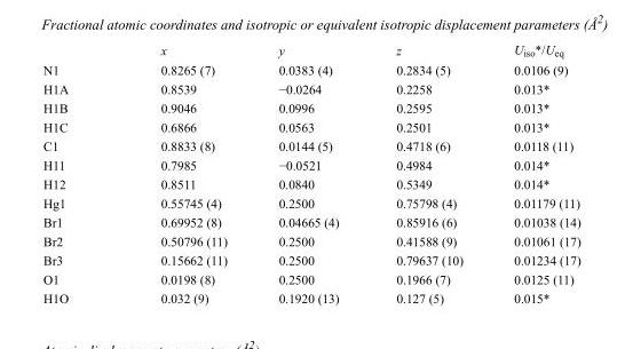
<table><thead><tr><td></td><td>x</td><td>y</td><td>z</td><td>U<sub>iso</sub>*/U<sub>eq</sub></td></tr></thead><tbody><tr><td>N1</td><td>0.8265 (7)</td><td>0.0383 (4)</td><td>0.2834 (5)</td><td>0.0106 (9)</td></tr><tr><td>H1A</td><td>0.8539</td><td>−0.0264</td><td>0.2258</td><td>0.013*</td></tr><tr><td>H1B</td><td>0.9046</td><td>0.0996</td><td>0.2595</td><td>0.013*</td></tr><tr><td>H1C</td><td>0.6866</td><td>0.0563</td><td>0.2501</td><td>0.013*</td></tr><tr><td>C1</td><td>0.8833 (8)</td><td>0.0144 (5)</td><td>0.4718 (6)</td><td>0.0118 (11)</td></tr><tr><td>H11</td><td>0.7985</td><td>−0.0521</td><td>0.4984</td><td>0.014*</td></tr><tr><td>H12</td><td>0.8511</td><td>0.0840</td><td>0.5349</td><td>0.014*</td></tr><tr><td>Hg1</td><td>0.55745 (4)</td><td>0.2500</td><td>0.75798 (4)</td><td>0.01179 (11)</td></tr><tr><td>Br1</td><td>0.69952 (8)</td><td>0.04665 (4)</td><td>0.85916 (6)</td><td>0.01038 (14)</td></tr><tr><td>Br2</td><td>0.50796 (11)</td><td>0.2500</td><td>0.41588 (9)</td><td>0.01061 (17)</td></tr><tr><td>Br3</td><td>0.15662 (11)</td><td>0.2500</td><td>0.79637 (10)</td><td>0.01234 (17)</td></tr><tr><td>O1</td><td>0.0198 (8)</td><td>0.2500</td><td>0.1966 (7)</td><td>0.0125 (11)</td></tr><tr><td>H1O</td><td>0.032 (9)</td><td>0.1920 (13)</td><td>0.127 (5)</td><td>0.015*</td></tr></tbody></table>